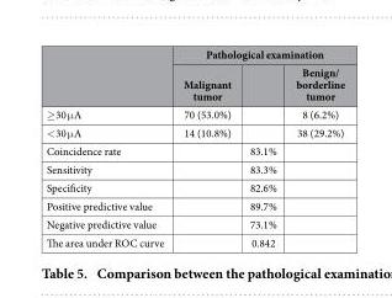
<table><thead><tr><td rowspan="2"></td><td colspan="3">Pathological examination</td></tr><tr><td>Malignant tumor</td><td></td><td>Benign/ borderline tumor</td></tr></thead><tbody><tr><td>≥ 30 μ A</td><td>70 (53.0%)</td><td></td><td>8 (6.2%)</td></tr><tr><td>&lt; 30 μ A</td><td>14 (10.8%)</td><td></td><td>38 (29.2%)</td></tr><tr><td>Coincidence rate</td><td></td><td>83.1%</td><td></td></tr><tr><td>Sensitivity</td><td></td><td>83.3%</td><td></td></tr><tr><td>Specificity</td><td></td><td>82.6%</td><td></td></tr><tr><td>Positive predictive value</td><td></td><td>89.7%</td><td></td></tr><tr><td>Negative predictive value</td><td></td><td>73.1%</td><td></td></tr><tr><td>The area under ROC curve</td><td></td><td>0.842</td><td></td></tr></tbody></table>